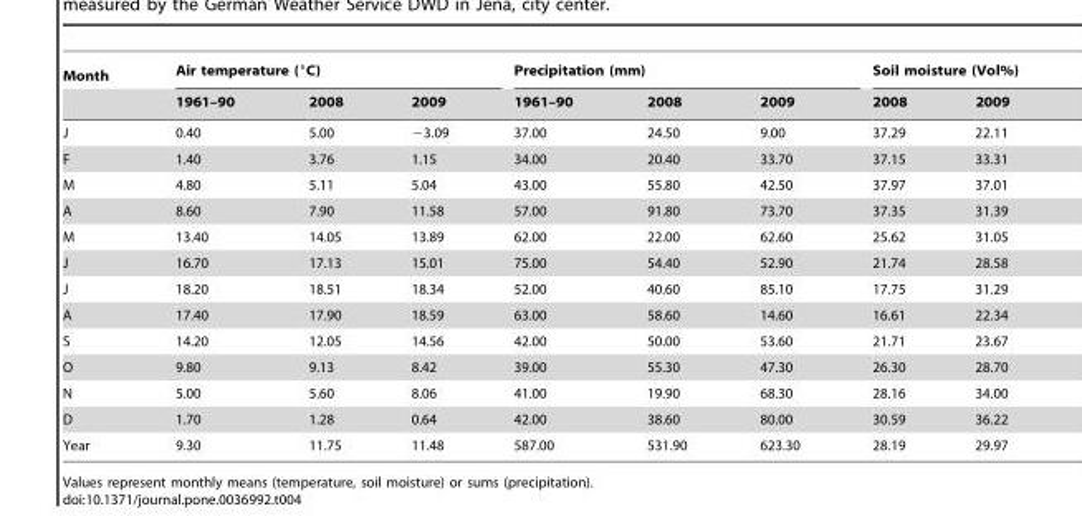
<table><thead><tr><td rowspan="2">Month</td><td colspan="3">Air temperature (°C)</td><td colspan="3">Precipitation (mm)</td><td colspan="2">Soil moisture (Vol%)</td></tr><tr><td>1961–90</td><td>2008</td><td>2009</td><td>1961–90</td><td>2008</td><td>2009</td><td>2008</td><td>2009</td></tr></thead><tbody><tr><td>J</td><td>0.40</td><td>5.00</td><td>−3.09</td><td>37.00</td><td>24.50</td><td>9.00</td><td>37.29</td><td>22.11</td></tr><tr><td>F</td><td>1.40</td><td>3.76</td><td>1.15</td><td>34.00</td><td>20.40</td><td>33.70</td><td>37.15</td><td>33.31</td></tr><tr><td>M</td><td>4.80</td><td>5.11</td><td>5.04</td><td>43.00</td><td>55.80</td><td>42.50</td><td>37.97</td><td>37.01</td></tr><tr><td>A</td><td>8.60</td><td>7.90</td><td>11.58</td><td>57.00</td><td>91.80</td><td>73.70</td><td>37.35</td><td>31.39</td></tr><tr><td>M</td><td>13.40</td><td>14.05</td><td>13.89</td><td>62.00</td><td>22.00</td><td>62.60</td><td>25.62</td><td>31.05</td></tr><tr><td>J</td><td>16.70</td><td>17.13</td><td>15.01</td><td>75.00</td><td>54.40</td><td>52.90</td><td>21.74</td><td>28.58</td></tr><tr><td>J</td><td>18.20</td><td>18.51</td><td>18.34</td><td>52.00</td><td>40.60</td><td>85.10</td><td>17.75</td><td>31.29</td></tr><tr><td>A</td><td>17.40</td><td>17.90</td><td>18.59</td><td>63.00</td><td>58.60</td><td>14.60</td><td>16.61</td><td>22.34</td></tr><tr><td>S</td><td>14.20</td><td>12.05</td><td>14.56</td><td>42.00</td><td>50.00</td><td>53.60</td><td>21.71</td><td>23.67</td></tr><tr><td>O</td><td>9.80</td><td>9.13</td><td>8.42</td><td>39.00</td><td>55.30</td><td>47.30</td><td>26.30</td><td>28.70</td></tr><tr><td>N</td><td>5.00</td><td>5.60</td><td>8.06</td><td>41.00</td><td>19.90</td><td>68.30</td><td>28.16</td><td>34.00</td></tr><tr><td>D</td><td>1.70</td><td>1.28</td><td>0.64</td><td>42.00</td><td>38.60</td><td>80.00</td><td>30.59</td><td>36.22</td></tr><tr><td>Year</td><td>9.30</td><td>11.75</td><td>11.48</td><td>587.00</td><td>531.90</td><td>623.30</td><td>28.19</td><td>29.97</td></tr></tbody></table>